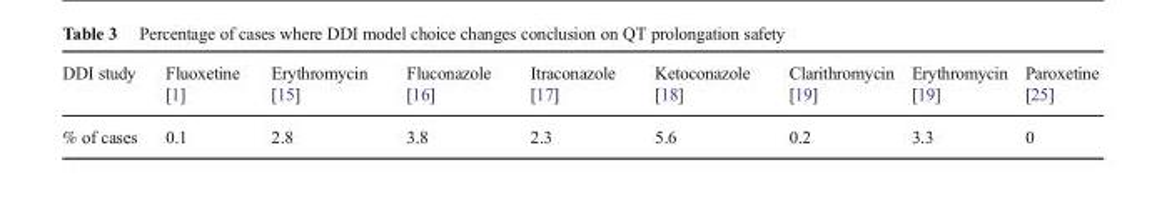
<table><thead><tr><td>DDI study</td><td>Fluoxetine [1]</td><td>Erythromycin [15]</td><td>Fluconazole [16]</td><td>Itraconazole [17]</td><td>Ketoconazole [18]</td><td>Clarithromycin [19]</td><td>Erythromycin [19]</td><td>Paroxetine [25]</td></tr></thead><tbody><tr><td>% of cases</td><td>0.1</td><td>2.8</td><td>3.8</td><td>2.3</td><td>5.6</td><td>0.2</td><td>3.3</td><td>0</td></tr></tbody></table>